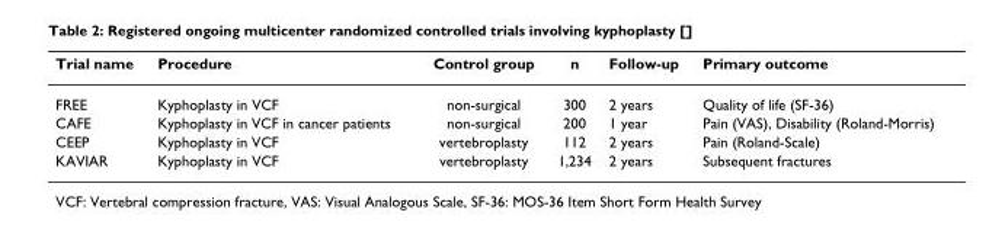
<table><thead><tr><td>Trial name</td><td>Procedure</td><td>Control group</td><td>n</td><td>Follow-up</td><td>Primary outcome</td></tr></thead><tbody><tr><td>FREE</td><td>Kyphoplasty in VCF</td><td>non-surgical</td><td>300</td><td>2 years</td><td>Quality of life (SF-36)</td></tr><tr><td>CAFE</td><td>Kyphoplasty in VCF in cancer patients</td><td>non-surgical</td><td>200</td><td>1 year</td><td>Pain (VAS), Disability (Roland-Morris)</td></tr><tr><td>CEEP</td><td>Kyphoplasty in VCF</td><td>vertebroplasty</td><td>112</td><td>2 years</td><td>Pain (Roland-Scale)</td></tr><tr><td>KAVIAR</td><td>Kyphoplasty in VCF</td><td>vertebroplasty</td><td>1,234</td><td>2 years</td><td>Subsequent fractures</td></tr></tbody></table>